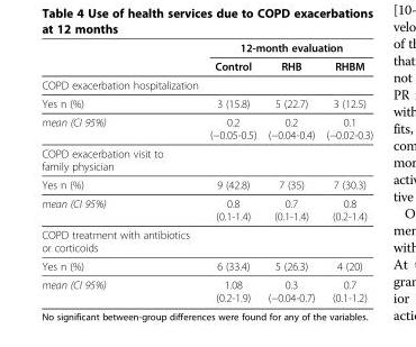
<table><thead><tr><td rowspan="2"></td><td colspan="3">12-month evaluation</td></tr><tr><td>Control</td><td>RHB</td><td>RHBM</td></tr></thead><tbody><tr><td colspan="4">COPD exacerbation hospitalization</td></tr><tr><td>Yes n (%)</td><td>3 (15.8)</td><td>5 (22.7)</td><td>3 (12.5)</td></tr><tr><td>mean (CI 95%)</td><td>0.2 (−0.05-0.5)</td><td>0.2 (−0.04-0.4)</td><td>0.1 (−0.02-0.3)</td></tr><tr><td colspan="4">COPD exacerbation visit to family physician</td></tr><tr><td>Yes n (%)</td><td>9 (42.8)</td><td>7 (35)</td><td>7 (30.3)</td></tr><tr><td>mean (CI 95%)</td><td>0.8 (0.1-1.4)</td><td>0.7 (0.1-1.4)</td><td>0.8 (0.2-1.4)</td></tr><tr><td colspan="4">COPD treatment with antibiotics or corticoids</td></tr><tr><td>Yes n (%)</td><td>6 (33.4)</td><td>5 (26.3)</td><td>4 (20)</td></tr><tr><td>mean (CI 95%)</td><td>1.08 (0.2-1.9)</td><td>0.3 (−0.04-0.7)</td><td>0.7 (0.1-1.2)</td></tr></tbody></table>